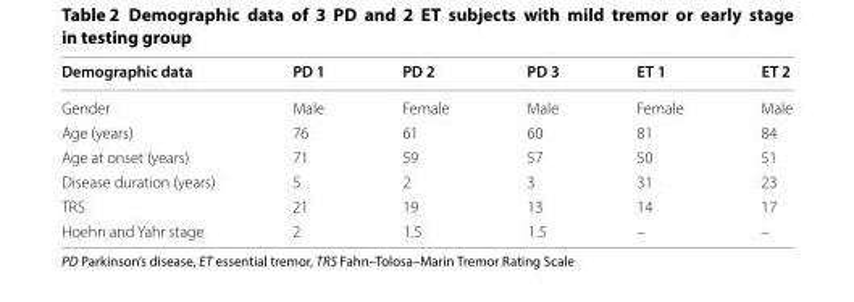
<table><thead><tr><td>Demographic data</td><td>PD 1</td><td>PD 2</td><td>PD 3</td><td>ET 1</td><td>ET 2</td></tr></thead><tbody><tr><td>Gender</td><td>Male</td><td>Female</td><td>Male</td><td>Female</td><td>Male</td></tr><tr><td>Age (years)</td><td>76</td><td>61</td><td>60</td><td>81</td><td>84</td></tr><tr><td>Age at onset (years)</td><td>71</td><td>59</td><td>57</td><td>50</td><td>51</td></tr><tr><td>Disease duration (years)</td><td>5</td><td>2</td><td>3</td><td>31</td><td>23</td></tr><tr><td>TRS</td><td>21</td><td>19</td><td>13</td><td>14</td><td>17</td></tr><tr><td>Hoehn and Yahr stage</td><td>2</td><td>1.5</td><td>1.5</td><td>–</td><td>–</td></tr></tbody></table>